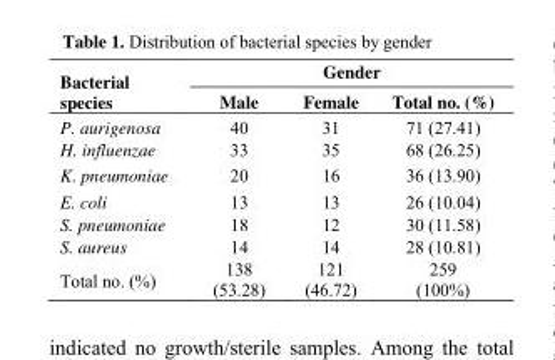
<table><thead><tr><td rowspan="2">Bacterial species</td><td colspan="3">Gender</td></tr><tr><td>Male</td><td>Female</td><td>Total no. (%)</td></tr></thead><tbody><tr><td>P. aurigenosa</td><td>40</td><td>31</td><td>71 (27.41)</td></tr><tr><td>H. influenzae</td><td>33</td><td>35</td><td>68 (26.25)</td></tr><tr><td>K. pneumoniae</td><td>20</td><td>16</td><td>36 (13.90)</td></tr><tr><td>E. coli</td><td>13</td><td>13</td><td>26 (10.04)</td></tr><tr><td>S. pneumoniae</td><td>18</td><td>12</td><td>30 (11.58)</td></tr><tr><td>S. aureus</td><td>14</td><td>14</td><td>28 (10.81)</td></tr><tr><td>Total no. (%)</td><td>138 (53.28)</td><td>121 (46.72)</td><td>259 (100%)</td></tr></tbody></table>